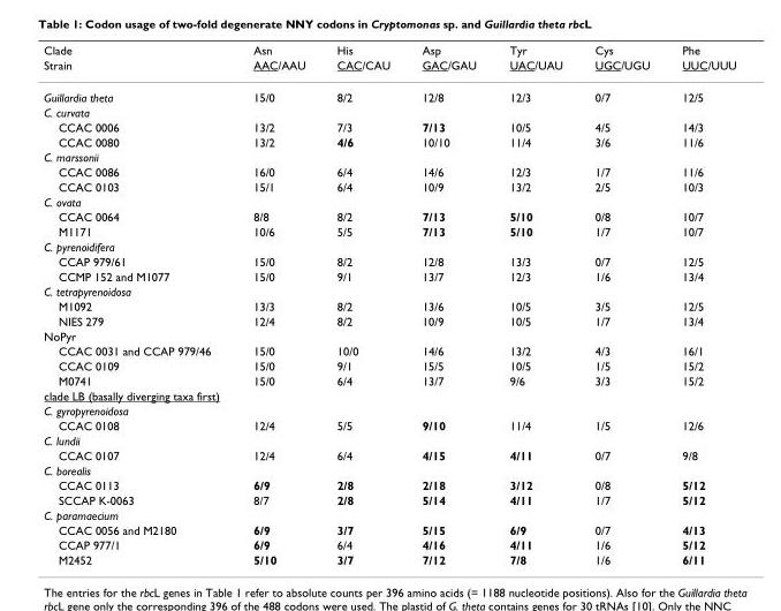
<table><thead><tr><td rowspan="2">Clade Strain</td><td rowspan="2">Asn AAC/AAU</td><td rowspan="2">His CAC/CAU</td><td rowspan="2">Asp GAC/GAU</td><td rowspan="2">Tyr UAC/UAU</td><td rowspan="2">Cys UGC/UGU</td><td rowspan="2">Phe UUC/UUU</td></tr><tr></tr></thead><tbody><tr><td>Guillardia theta</td><td>15/0</td><td>8/2</td><td>12/8</td><td>12/3</td><td>0/7</td><td>12/5</td></tr><tr><td colspan="7">C. curvata</td></tr><tr><td>CCAC 0006</td><td>13/2</td><td>7/3</td><td>7/13</td><td>10/5</td><td>4/5</td><td>14/3</td></tr><tr><td>CCAC 0080</td><td>13/2</td><td>4/6</td><td>10/10</td><td>11/4</td><td>3/6</td><td>11/6</td></tr><tr><td colspan="7">C. marssonii</td></tr><tr><td>CCAC 0086</td><td>16/0</td><td>6/4</td><td>14/6</td><td>12/3</td><td>1/7</td><td>11/6</td></tr><tr><td>CCAC 0103</td><td>15/1</td><td>6/4</td><td>10/9</td><td>13/2</td><td>2/5</td><td>10/3</td></tr><tr><td colspan="7">C. ovata</td></tr><tr><td>CCAC 0064</td><td>8/8</td><td>8/2</td><td>7/13</td><td>5/10</td><td>0/8</td><td>10/7</td></tr><tr><td>M1171</td><td>10/6</td><td>5/5</td><td>7/13</td><td>5/10</td><td>1/7</td><td>10/7</td></tr><tr><td colspan="7">C. pyrenoidifera</td></tr><tr><td>CCAP 979/61</td><td>15/0</td><td>8/2</td><td>12/8</td><td>13/3</td><td>0/7</td><td>12/5</td></tr><tr><td>CCMP 152 and M1077</td><td>15/0</td><td>9/1</td><td>13/7</td><td>12/3</td><td>1/6</td><td>13/4</td></tr><tr><td colspan="7">C. tetrapyrenoidosa</td></tr><tr><td>M1092</td><td>13/3</td><td>8/2</td><td>13/6</td><td>10/5</td><td>3/5</td><td>12/5</td></tr><tr><td>NIES 279</td><td>12/4</td><td>8/2</td><td>10/9</td><td>10/5</td><td>1/7</td><td>13/4</td></tr><tr><td colspan="7">NoPyr</td></tr><tr><td>CCAC 0031 and CCAP 979/46</td><td>15/0</td><td>10/0</td><td>14/6</td><td>13/2</td><td>4/3</td><td>16/1</td></tr><tr><td>CCAC 0109</td><td>15/0</td><td>9/1</td><td>15/5</td><td>10/5</td><td>1/5</td><td>15/2</td></tr><tr><td>M0741</td><td>15/0</td><td>6/4</td><td>13/7</td><td>9/6</td><td>3/3</td><td>15/2</td></tr><tr><td colspan="7">clade LB (basally diverging taxa first)</td></tr><tr><td colspan="7">C. gyropyrenoidosa</td></tr><tr><td>CCAC 0108</td><td>12/4</td><td>5/5</td><td>9/10</td><td>11/4</td><td>1/5</td><td>12/6</td></tr><tr><td colspan="7">C. lundii</td></tr><tr><td>CCAC 0107</td><td>12/4</td><td>6/4</td><td>4/15</td><td>4/11</td><td>0/7</td><td>9/8</td></tr><tr><td colspan="7">C. borealis</td></tr><tr><td>CCAC 0113</td><td>6/9</td><td>2/8</td><td>2/18</td><td>3/12</td><td>0/8</td><td>5/12</td></tr><tr><td>SCCAP K-0063</td><td>8/7</td><td>2/8</td><td>5/14</td><td>4/11</td><td>1/7</td><td>5/12</td></tr><tr><td colspan="7">C. paramaecium</td></tr><tr><td>CCAC 0056 and M2180</td><td>6/9</td><td>3/7</td><td>5/15</td><td>6/9</td><td>0/7</td><td>4/13</td></tr><tr><td>CCAP 977/1</td><td>6/9</td><td>6/4</td><td>4/16</td><td>4/11</td><td>1/6</td><td>5/12</td></tr><tr><td>M2452</td><td>5/10</td><td>3/7</td><td>7/12</td><td>7/8</td><td>1/6</td><td>6/11</td></tr></tbody></table>